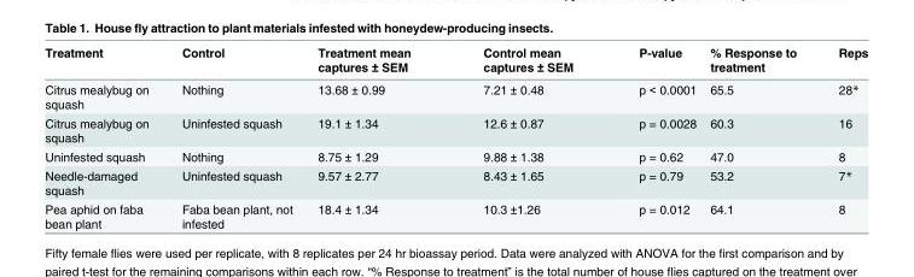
<table><thead><tr><td>Treatment</td><td>Control</td><td>Treatment mean captures ± SEM</td><td>Control mean captures ± SEM</td><td>P-value</td><td>% Response to treatment</td><td>Reps</td></tr></thead><tbody><tr><td>Citrus mealybug on squash</td><td>Nothing</td><td>13.68 ± 0.99</td><td>7.21 ± 0.48</td><td>p &lt; 0.0001</td><td>65.5</td><td>28*</td></tr><tr><td>Citrus mealybug on squash</td><td>Uninfested squash</td><td>19.1 ± 1.34</td><td>12.6 ± 0.87</td><td>p = 0.0028</td><td>60.3</td><td>16</td></tr><tr><td>Uninfested squash</td><td>Nothing</td><td>8.75 ± 1.29</td><td>9.88 ± 1.38</td><td>p = 0.62</td><td>47.0</td><td>8</td></tr><tr><td>Needle-damaged squash</td><td>Uninfested squash</td><td>9.57 ± 2.77</td><td>8.43 ± 1.65</td><td>p = 0.79</td><td>53.2</td><td>7*</td></tr><tr><td>Pea aphid on faba bean plant</td><td>Faba bean plant, not infested</td><td>18.4 ± 1.34</td><td>10.3 ±1.26</td><td>p = 0.012</td><td>64.1</td><td>8</td></tr></tbody></table>